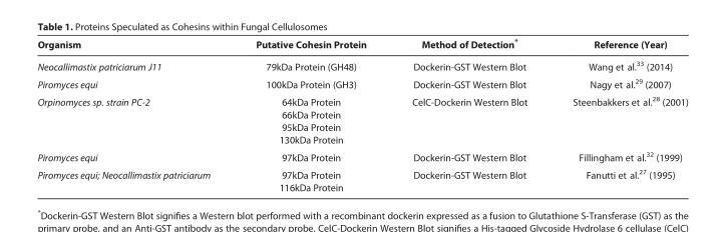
<table><thead><tr><td>Organism</td><td>Putative Cohesin Protein</td><td>Method of Detection*</td><td>Reference (Year)</td></tr></thead><tbody><tr><td>Neocallimastix patriciarum J11</td><td>79kDa Protein (GH48)</td><td>Dockerin-GST Western Blot</td><td>Wang et al.<sup>33</sup> (2014)</td></tr><tr><td>Piromyces equi</td><td>100kDa Protein (GH3)</td><td>Dockerin-GST Western Blot</td><td>Nagy et al.<sup>29</sup> (2007)</td></tr><tr><td rowspan="4">Orpinomyces sp. strain PC-2</td><td>64kDa Protein</td><td>CelC-Dockerin Western Blot</td><td>Steenbakkers et al.<sup>28</sup> (2001)</td></tr><tr><td>66kDa Protein</td><td></td><td></td></tr><tr><td>95kDa Protein</td><td></td><td></td></tr><tr><td>130kDa Protein</td><td></td><td></td></tr><tr><td>Piromyces equi</td><td>97kDa Protein</td><td>Dockerin-GST Western Blot</td><td>Fillingham et al.<sup>32</sup> (1999)</td></tr><tr><td rowspan="2">Piromyces equi; Neocallimastix patriciarum</td><td>97kDa Protein</td><td>Dockerin-GST Western Blot</td><td>Fanutti et al.<sup>27</sup> (1995)</td></tr><tr><td>116kDa Protein</td><td></td><td></td></tr></tbody></table>